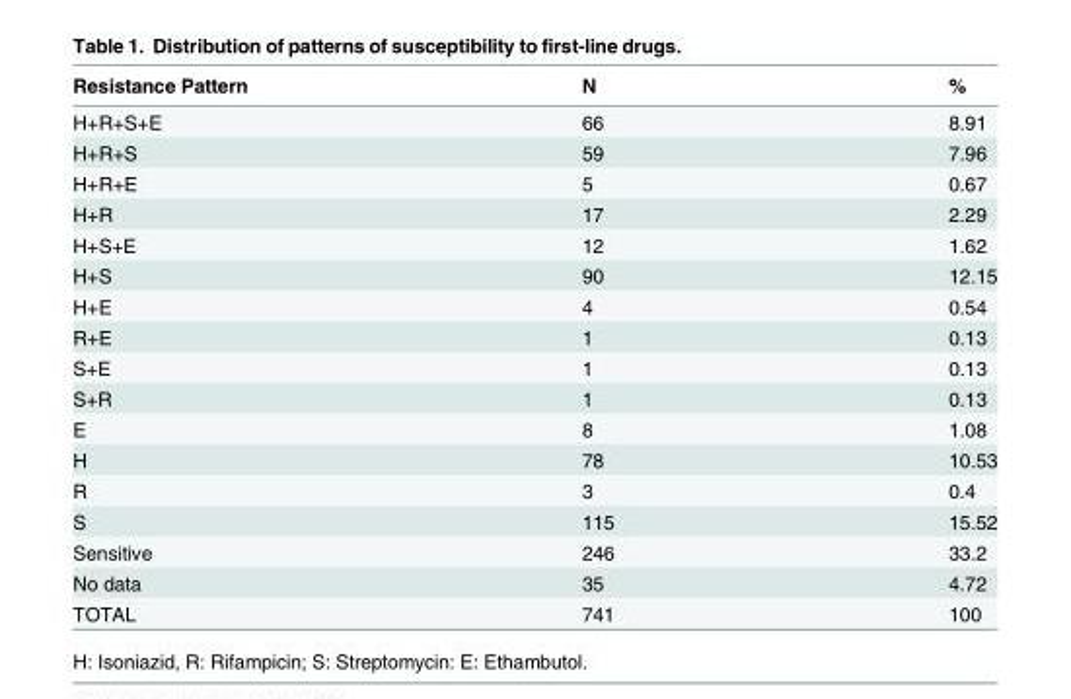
<table><thead><tr><td>Resistance Pattern</td><td>N</td><td>%</td></tr></thead><tbody><tr><td>H+R+S+E</td><td>66</td><td>8.91</td></tr><tr><td>H+R+S</td><td>59</td><td>7.96</td></tr><tr><td>H+R+E</td><td>5</td><td>0.67</td></tr><tr><td>H+R</td><td>17</td><td>2.29</td></tr><tr><td>H+S+E</td><td>12</td><td>1.62</td></tr><tr><td>H+S</td><td>90</td><td>12.15</td></tr><tr><td>H+E</td><td>4</td><td>0.54</td></tr><tr><td>R+E</td><td>1</td><td>0.13</td></tr><tr><td>S+E</td><td>1</td><td>0.13</td></tr><tr><td>S+R</td><td>1</td><td>0.13</td></tr><tr><td>E</td><td>8</td><td>1.08</td></tr><tr><td>H</td><td>78</td><td>10.53</td></tr><tr><td>R</td><td>3</td><td>0.4</td></tr><tr><td>S</td><td>115</td><td>15.52</td></tr><tr><td>Sensitive</td><td>246</td><td>33.2</td></tr><tr><td>No data</td><td>35</td><td>4.72</td></tr><tr><td>TOTAL</td><td>741</td><td>100</td></tr></tbody></table>